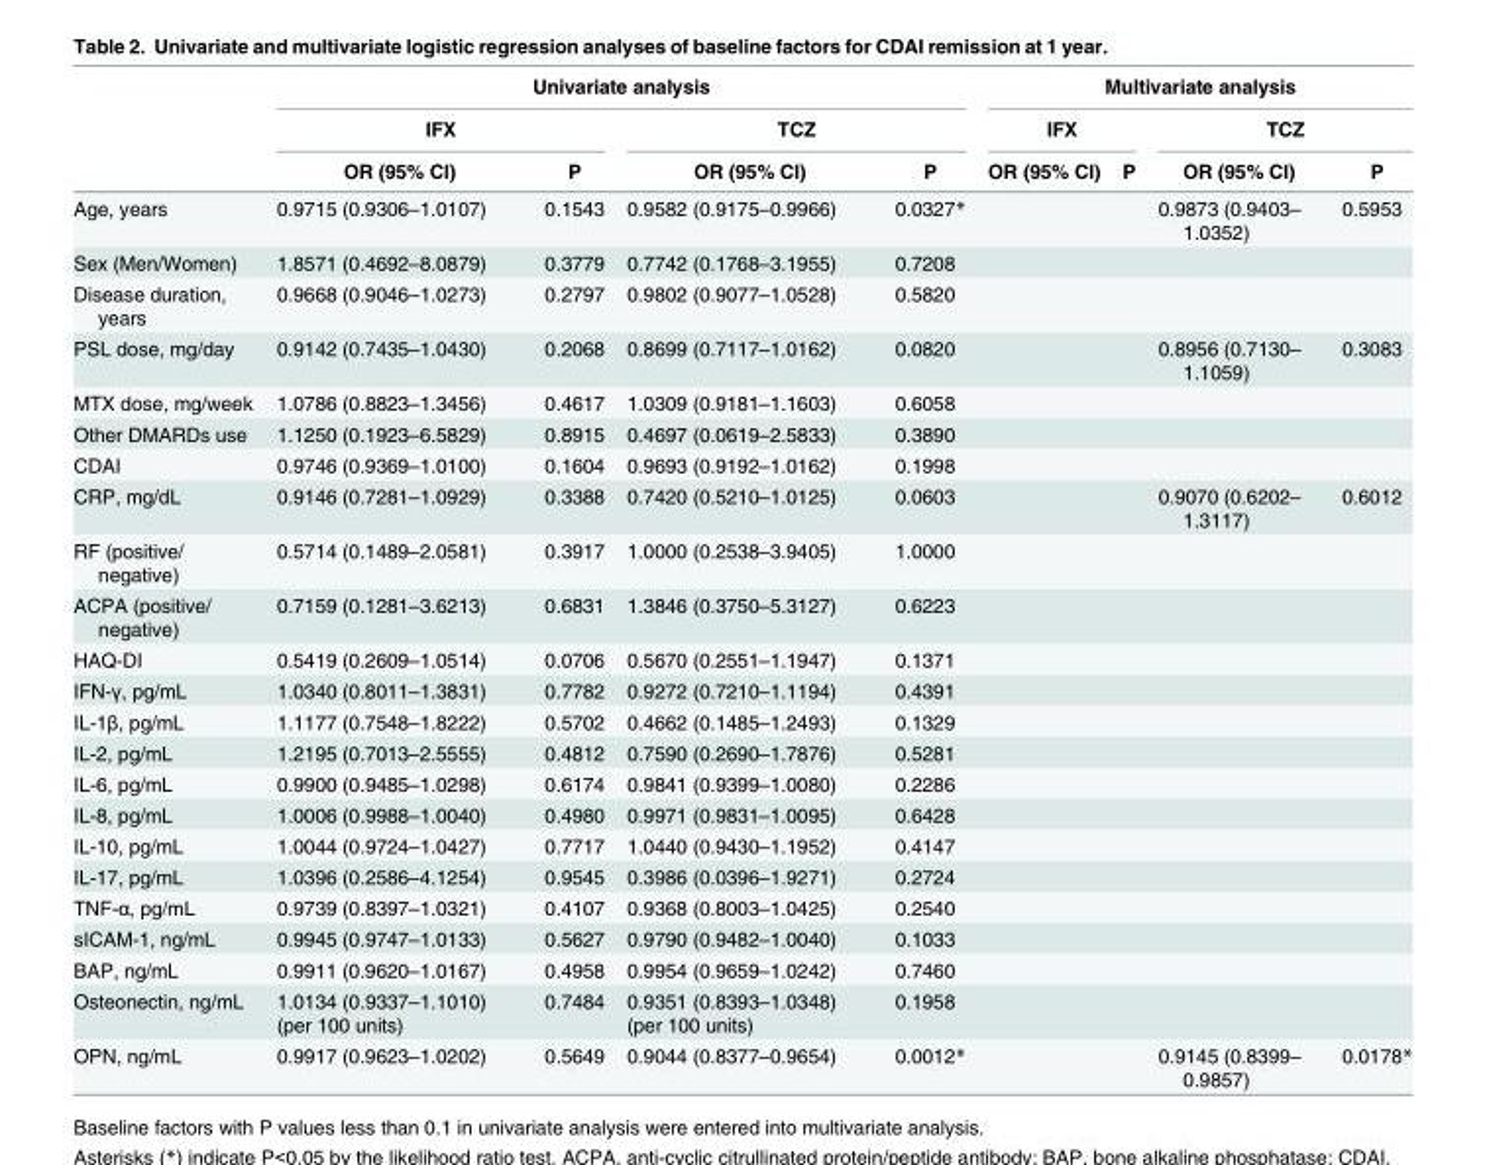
<table><thead><tr><td rowspan="3"></td><td colspan="4">Univariate analysis</td><td colspan="4">Multivariate analysis</td></tr><tr><td colspan="2">IFX</td><td colspan="2">TCZ</td><td colspan="2">IFX</td><td colspan="2">TCZ</td></tr><tr><td>OR (95% CI)</td><td>P</td><td>OR (95% CI)</td><td>P</td><td>OR (95% CI)</td><td>P</td><td>OR (95% CI)</td><td>P</td></tr></thead><tbody><tr><td>Age, years</td><td>0.9715 (0.9306–1.0107)</td><td>0.1543</td><td>0.9582 (0.9175–0.9966)</td><td>0.0327*</td><td></td><td></td><td>0.9873 (0.9403– 1.0352)</td><td>0.5953</td></tr><tr><td>Sex (Men/Women)</td><td>1.8571 (0.4692–8.0879)</td><td>0.3779</td><td>0.7742 (0.1768–3.1955)</td><td>0.7208</td><td></td><td></td><td></td><td></td></tr><tr><td>Disease duration, years</td><td>0.9668 (0.9046–1.0273)</td><td>0.2797</td><td>0.9802 (0.9077–1.0528)</td><td>0.5820</td><td></td><td></td><td></td><td></td></tr><tr><td>PSL dose, mg/day</td><td>0.9142 (0.7435–1.0430)</td><td>0.2068</td><td>0.8699 (0.7117–1.0162)</td><td>0.0820</td><td></td><td></td><td>0.8956 (0.7130– 1.1059)</td><td>0.3083</td></tr><tr><td>MTX dose, mg/week</td><td>1.0786 (0.8823–1.3456)</td><td>0.4617</td><td>1.0309 (0.9181–1.1603)</td><td>0.6058</td><td></td><td></td><td></td><td></td></tr><tr><td>Other DMARDs use</td><td>1.1250 (0.1923–6.5829)</td><td>0.8915</td><td>0.4697 (0.0619–2.5833)</td><td>0.3890</td><td></td><td></td><td></td><td></td></tr><tr><td>CDAI</td><td>0.9746 (0.9369–1.0100)</td><td>0.1604</td><td>0.9693 (0.9192–1.0162)</td><td>0.1998</td><td></td><td></td><td></td><td></td></tr><tr><td>CRP, mg/dL</td><td>0.9146 (0.7281–1.0929)</td><td>0.3388</td><td>0.7420 (0.5210–1.0125)</td><td>0.0603</td><td></td><td></td><td>0.9070 (0.6202– 1.3117)</td><td>0.6012</td></tr><tr><td>RF (positive/ negative)</td><td>0.5714 (0.1489–2.0581)</td><td>0.3917</td><td>1.0000 (0.2538–3.9405)</td><td>1.0000</td><td></td><td></td><td></td><td></td></tr><tr><td>ACPA (positive/ negative)</td><td>0.7159 (0.1281–3.6213)</td><td>0.6831</td><td>1.3846 (0.3750–5.3127)</td><td>0.6223</td><td></td><td></td><td></td><td></td></tr><tr><td>HAQ-DI</td><td>0.5419 (0.2609–1.0514)</td><td>0.0706</td><td>0.5670 (0.2551–1.1947)</td><td>0.1371</td><td></td><td></td><td></td><td></td></tr><tr><td>IFN-γ, pg/mL</td><td>1.0340 (0.8011–1.3831)</td><td>0.7782</td><td>0.9272 (0.7210–1.1194)</td><td>0.4391</td><td></td><td></td><td></td><td></td></tr><tr><td>IL-1β, pg/mL</td><td>1.1177 (0.7548–1.8222)</td><td>0.5702</td><td>0.4662 (0.1485–1.2493)</td><td>0.1329</td><td></td><td></td><td></td><td></td></tr><tr><td>IL-2, pg/mL</td><td>1.2195 (0.7013–2.5555)</td><td>0.4812</td><td>0.7590 (0.2690–1.7876)</td><td>0.5281</td><td></td><td></td><td></td><td></td></tr><tr><td>IL-6, pg/mL</td><td>0.9900 (0.9485–1.0298)</td><td>0.6174</td><td>0.9841 (0.9399–1.0080)</td><td>0.2286</td><td></td><td></td><td></td><td></td></tr><tr><td>IL-8, pg/mL</td><td>1.0006 (0.9988–1.0040)</td><td>0.4980</td><td>0.9971 (0.9831–1.0095)</td><td>0.6428</td><td></td><td></td><td></td><td></td></tr><tr><td>IL-10, pg/mL</td><td>1.0044 (0.9724–1.0427)</td><td>0.7717</td><td>1.0440 (0.9430–1.1952)</td><td>0.4147</td><td></td><td></td><td></td><td></td></tr><tr><td>IL-17, pg/mL</td><td>1.0396 (0.2586–4.1254)</td><td>0.9545</td><td>0.3986 (0.0396–1.9271)</td><td>0.2724</td><td></td><td></td><td></td><td></td></tr><tr><td>TNF-α, pg/mL</td><td>0.9739 (0.8397–1.0321)</td><td>0.4107</td><td>0.9368 (0.8003–1.0425)</td><td>0.2540</td><td></td><td></td><td></td><td></td></tr><tr><td>sICAM-1, ng/mL</td><td>0.9945 (0.9747–1.0133)</td><td>0.5627</td><td>0.9790 (0.9482–1.0040)</td><td>0.1033</td><td></td><td></td><td></td><td></td></tr><tr><td>BAP, ng/mL</td><td>0.9911 (0.9620–1.0167)</td><td>0.4958</td><td>0.9954 (0.9659–1.0242)</td><td>0.7460</td><td></td><td></td><td></td><td></td></tr><tr><td>Osteonectin, ng/mL</td><td>1.0134 (0.9337–1.1010) (per 100 units)</td><td>0.7484</td><td>0.9351 (0.8393–1.0348) (per 100 units)</td><td>0.1958</td><td></td><td></td><td></td><td></td></tr><tr><td>OPN, ng/mL</td><td>0.9917 (0.9623–1.0202)</td><td>0.5649</td><td>0.9044 (0.8377–0.9654)</td><td>0.0012*</td><td></td><td></td><td>0.9145 (0.8399– 0.9857)</td><td>0.0178*</td></tr></tbody></table>